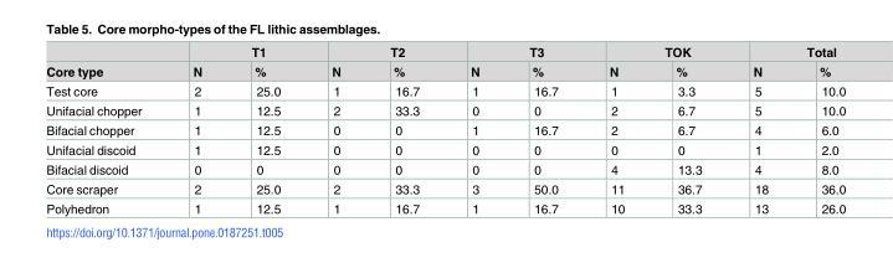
<table><thead><tr><td rowspan="2">Core type</td><td colspan="2">T1</td><td colspan="2">T2</td><td colspan="2">T3</td><td colspan="2">TOK</td><td colspan="2">Total</td></tr><tr><td>N</td><td>%</td><td>N</td><td>%</td><td>N</td><td>%</td><td>N</td><td>%</td><td>N</td><td>%</td></tr></thead><tbody><tr><td>Test core</td><td>2</td><td>25.0</td><td>1</td><td>16.7</td><td>1</td><td>16.7</td><td>1</td><td>3.3</td><td>5</td><td>10.0</td></tr><tr><td>Unifacial chopper</td><td>1</td><td>12.5</td><td>2</td><td>33.3</td><td>0</td><td>0</td><td>2</td><td>6.7</td><td>5</td><td>10.0</td></tr><tr><td>Bifacial chopper</td><td>1</td><td>12.5</td><td>0</td><td>0</td><td>1</td><td>16.7</td><td>2</td><td>6.7</td><td>4</td><td>6.0</td></tr><tr><td>Unifacial discoid</td><td>1</td><td>12.5</td><td>0</td><td>0</td><td>0</td><td>0</td><td>0</td><td>0</td><td>1</td><td>2.0</td></tr><tr><td>Bifacial discoid</td><td>0</td><td>0</td><td>0</td><td>0</td><td>0</td><td>0</td><td>4</td><td>13.3</td><td>4</td><td>8.0</td></tr><tr><td>Core scraper</td><td>2</td><td>25.0</td><td>2</td><td>33.3</td><td>3</td><td>50.0</td><td>11</td><td>36.7</td><td>18</td><td>36.0</td></tr><tr><td>Polyhedron</td><td>1</td><td>12.5</td><td>1</td><td>16.7</td><td>1</td><td>16.7</td><td>10</td><td>33.3</td><td>13</td><td>26.0</td></tr></tbody></table>